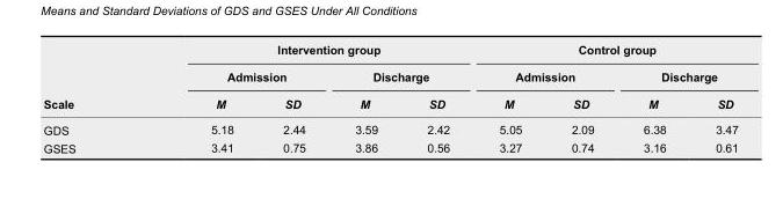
<table><thead><tr><td rowspan="3">Scale</td><td colspan="4">Intervention group</td><td colspan="4">Control group</td></tr><tr><td colspan="2">Admission</td><td colspan="2">Discharge</td><td colspan="2">Admission</td><td colspan="2">Discharge</td></tr><tr><td>M</td><td>SD</td><td>M</td><td>SD</td><td>M</td><td>SD</td><td>M</td><td>SD</td></tr></thead><tbody><tr><td>GDS</td><td>5.18</td><td>2.44</td><td>3.59</td><td>2.42</td><td>5.05</td><td>2.09</td><td>6.38</td><td>3.47</td></tr><tr><td>GSES</td><td>3.41</td><td>0.75</td><td>3.86</td><td>0.56</td><td>3.27</td><td>0.74</td><td>3.16</td><td>0.61</td></tr></tbody></table>